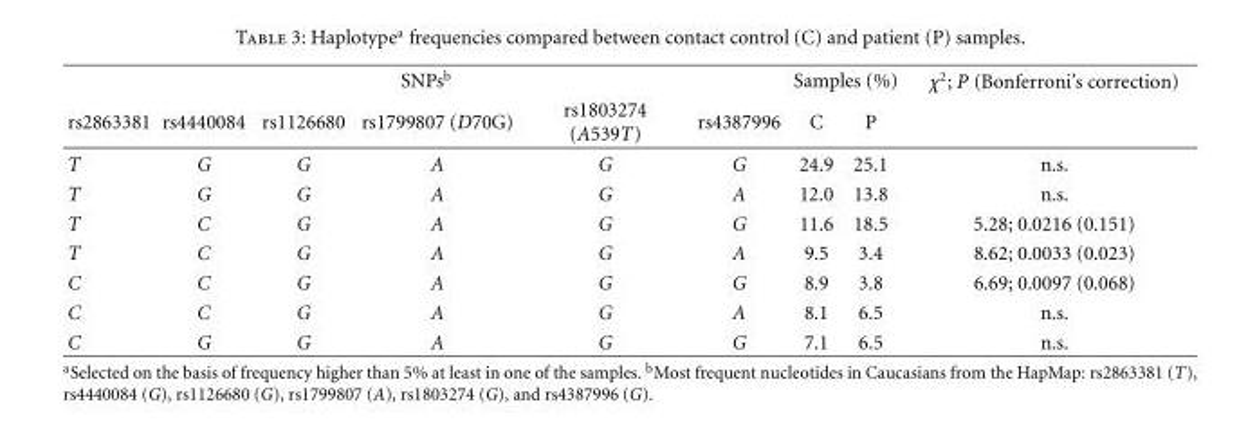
<table><thead><tr><td rowspan="2">rs2863381</td><td rowspan="2">rs4440084</td><td colspan="2">SNPs<sup>b</sup></td><td rowspan="2">rs1803274 (A539T)</td><td rowspan="2">rs4387996</td><td colspan="2">Samples (%)</td><td rowspan="2">χ<sup>2</sup>; P (Bonferroni’s correction)</td></tr><tr><td>rs1126680</td><td>rs1799807 (D70G)</td><td>C</td><td>P</td></tr></thead><tbody><tr><td>T</td><td>G</td><td>G</td><td>A</td><td>G</td><td>G</td><td>24.9</td><td>25.1</td><td>n.s.</td></tr><tr><td>T</td><td>G</td><td>G</td><td>A</td><td>G</td><td>A</td><td>12.0</td><td>13.8</td><td>n.s.</td></tr><tr><td>T</td><td>C</td><td>G</td><td>A</td><td>G</td><td>G</td><td>11.6</td><td>18.5</td><td>5.28; 0.0216 (0.151)</td></tr><tr><td>T</td><td>C</td><td>G</td><td>A</td><td>G</td><td>A</td><td>9.5</td><td>3.4</td><td>8.62; 0.0033 (0.023)</td></tr><tr><td>C</td><td>C</td><td>G</td><td>A</td><td>G</td><td>G</td><td>8.9</td><td>3.8</td><td>6.69; 0.0097 (0.068)</td></tr><tr><td>C</td><td>C</td><td>G</td><td>A</td><td>G</td><td>A</td><td>8.1</td><td>6.5</td><td>n.s.</td></tr><tr><td>C</td><td>G</td><td>G</td><td>A</td><td>G</td><td>G</td><td>7.1</td><td>6.5</td><td>n.s.</td></tr></tbody></table>